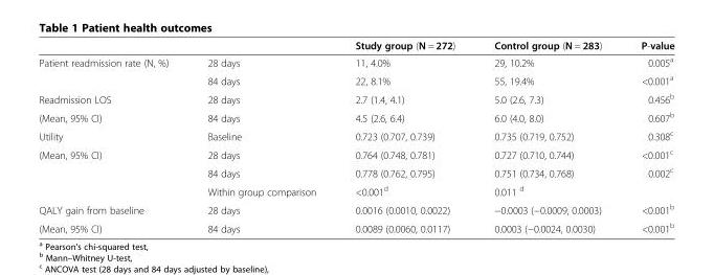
<table><thead><tr><td></td><td></td><td>Study group (N = 272)</td><td>Control group (N = 283)</td><td>P-value</td></tr></thead><tbody><tr><td rowspan="2">Patient readmission rate (N, %)</td><td>28 days</td><td>11, 4.0%</td><td>29, 10.2%</td><td>0.005<sup>a</sup></td></tr><tr><td>84 days</td><td>22, 8.1%</td><td>55, 19.4%</td><td>&lt;0.001<sup>a</sup></td></tr><tr><td>Readmission LOS</td><td>28 days</td><td>2.7 (1.4, 4.1)</td><td>5.0 (2.6, 7.3)</td><td>0.456<sup>b</sup></td></tr><tr><td>(Mean, 95% CI)</td><td>84 days</td><td>4.5 (2.6, 6.4)</td><td>6.0 (4.0, 8.0)</td><td>0.607<sup>b</sup></td></tr><tr><td>Utility</td><td>Baseline</td><td>0.723 (0.707, 0.739)</td><td>0.735 (0.719, 0.752)</td><td>0.308<sup>c</sup></td></tr><tr><td rowspan="3">(Mean, 95% CI)</td><td>28 days</td><td>0.764 (0.748, 0.781)</td><td>0.727 (0.710, 0.744)</td><td>&lt;0.001<sup>c</sup></td></tr><tr><td>84 days</td><td>0.778 (0.762, 0.795)</td><td>0.751 (0.734, 0.768)</td><td>0.002<sup>c</sup></td></tr><tr><td>Within group comparison</td><td>&lt;0.001<sup>d</sup></td><td>0.011 <sup>d</sup></td><td></td></tr><tr><td>QALY gain from baseline</td><td>28 days</td><td>0.0016 (0.0010, 0.0022)</td><td>−0.0003 (−0.0009, 0.0003)</td><td>&lt;0.001<sup>b</sup></td></tr><tr><td>(Mean, 95% CI)</td><td>84 days</td><td>0.0089 (0.0060, 0.0117)</td><td>0.0003 (−0.0024, 0.0030)</td><td>&lt;0.001<sup>b</sup></td></tr></tbody></table>